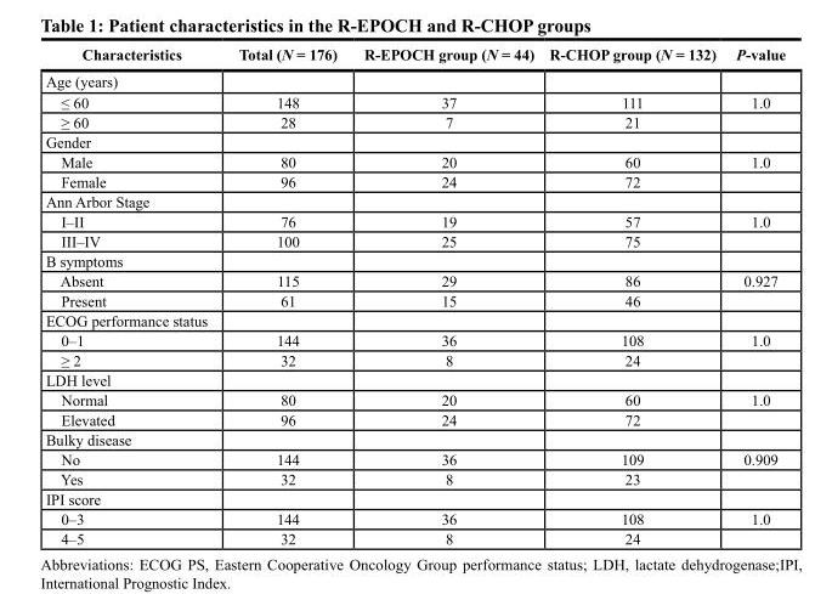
<table><thead><tr><td>characteristics</td><td>total (N = 176)</td><td>r-EPocH group (N = 44)</td><td>r-cHoP group (N = 132)</td><td>P-value</td></tr></thead><tbody><tr><td colspan="5">Age (years)</td></tr><tr><td>≤ 60</td><td>148</td><td>37</td><td>111</td><td>1.0</td></tr><tr><td>≥ 60</td><td>28</td><td>7</td><td>21</td><td></td></tr><tr><td colspan="5">Gender</td></tr><tr><td>Male</td><td>80</td><td>20</td><td>60</td><td>1.0</td></tr><tr><td>Female</td><td>96</td><td>24</td><td>72</td><td></td></tr><tr><td colspan="5">Ann Arbor Stage</td></tr><tr><td>I–II</td><td>76</td><td>19</td><td>57</td><td>1.0</td></tr><tr><td>III–IV</td><td>100</td><td>25</td><td>75</td><td></td></tr><tr><td colspan="5">B symptoms</td></tr><tr><td>Absent</td><td>115</td><td>29</td><td>86</td><td>0.927</td></tr><tr><td>Present</td><td>61</td><td>15</td><td>46</td><td></td></tr><tr><td colspan="5">ECOG performance status</td></tr><tr><td>0–1</td><td>144</td><td>36</td><td>108</td><td>1.0</td></tr><tr><td>≥ 2</td><td>32</td><td>8</td><td>24</td><td></td></tr><tr><td colspan="5">LDH level</td></tr><tr><td>Normal</td><td>80</td><td>20</td><td>60</td><td>1.0</td></tr><tr><td>Elevated</td><td>96</td><td>24</td><td>72</td><td></td></tr><tr><td colspan="5">Bulky disease</td></tr><tr><td>No</td><td>144</td><td>36</td><td>109</td><td>0.909</td></tr><tr><td>Yes</td><td>32</td><td>8</td><td>23</td><td></td></tr><tr><td colspan="5">IPI score</td></tr><tr><td>0–3</td><td>144</td><td>36</td><td>108</td><td>1.0</td></tr><tr><td>4–5</td><td>32</td><td>8</td><td>24</td><td></td></tr></tbody></table>